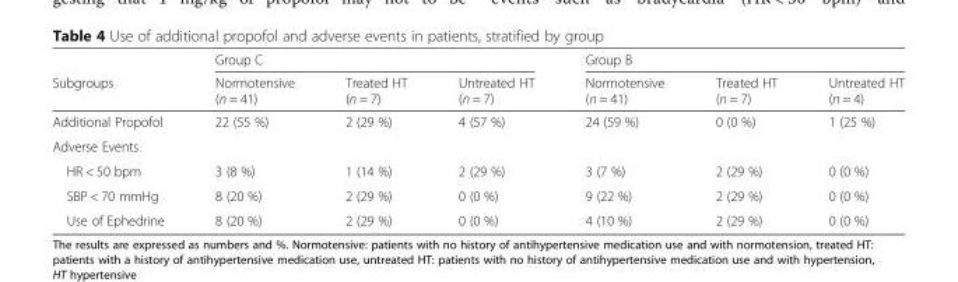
<table><thead><tr><td rowspan="2">Subgroups</td><td colspan="3">Group C</td><td colspan="3">Group B</td></tr><tr><td>Normotensive (n = 41)</td><td>Treated HT (n = 7)</td><td>Untreated HT (n = 7)</td><td>Normotensive (n = 41)</td><td>Treated HT (n = 7)</td><td>Untreated HT (n = 4)</td></tr></thead><tbody><tr><td>Additional Propofol</td><td>22 (55 %)</td><td>2 (29 %)</td><td>4 (57 %)</td><td>24 (59 %)</td><td>0 (0 %)</td><td>1 (25 %)</td></tr><tr><td colspan="7">Adverse Events</td></tr><tr><td>HR &lt; 50 bpm</td><td>3 (8 %)</td><td>1 (14 %)</td><td>2 (29 %)</td><td>3 (7 %)</td><td>2 (29 %)</td><td>0 (0 %)</td></tr><tr><td>SBP &lt; 70 mmHg</td><td>8 (20 %)</td><td>2 (29 %)</td><td>0 (0 %)</td><td>9 (22 %)</td><td>2 (29 %)</td><td>0 (0 %)</td></tr><tr><td>Use of Ephedrine</td><td>8 (20 %)</td><td>2 (29 %)</td><td>0 (0 %)</td><td>4 (10 %)</td><td>2 (29 %)</td><td>0 (0 %)</td></tr></tbody></table>